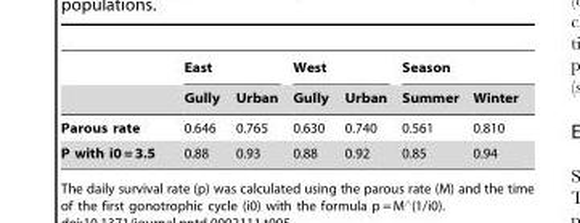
<table><thead><tr><td rowspan="2"></td><td colspan="2">East</td><td colspan="2">West</td><td colspan="2">Season</td></tr><tr><td>Gully</td><td>Urban</td><td>Gully</td><td>Urban</td><td>Summer</td><td>Winter</td></tr></thead><tbody><tr><td>Parous rate</td><td>0.646</td><td>0.765</td><td>0.630</td><td>0.740</td><td>0.561</td><td>0.810</td></tr><tr><td>P with i0 = 3.5</td><td>0.88</td><td>0.93</td><td>0.88</td><td>0.92</td><td>0.85</td><td>0.94</td></tr></tbody></table>